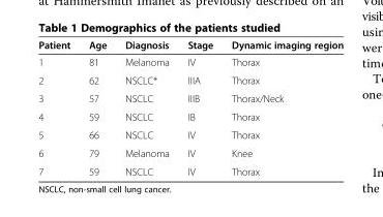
<table><thead><tr><td>Patient</td><td>Age</td><td>Diagnosis</td><td>Stage</td><td>Dynamic imaging region</td></tr></thead><tbody><tr><td>1</td><td>81</td><td>Melanoma</td><td>IV</td><td>Thorax</td></tr><tr><td>2</td><td>62</td><td>NSCLC*</td><td>IIIA</td><td>Thorax</td></tr><tr><td>3</td><td>57</td><td>NSCLC</td><td>IIIB</td><td>Thorax/Neck</td></tr><tr><td>4</td><td>59</td><td>NSCLC</td><td>IB</td><td>Thorax</td></tr><tr><td>5</td><td>66</td><td>NSCLC</td><td>IV</td><td>Thorax</td></tr><tr><td>6</td><td>79</td><td>Melanoma</td><td>IV</td><td>Knee</td></tr><tr><td>7</td><td>59</td><td>NSCLC</td><td>IV</td><td>Thorax</td></tr></tbody></table>